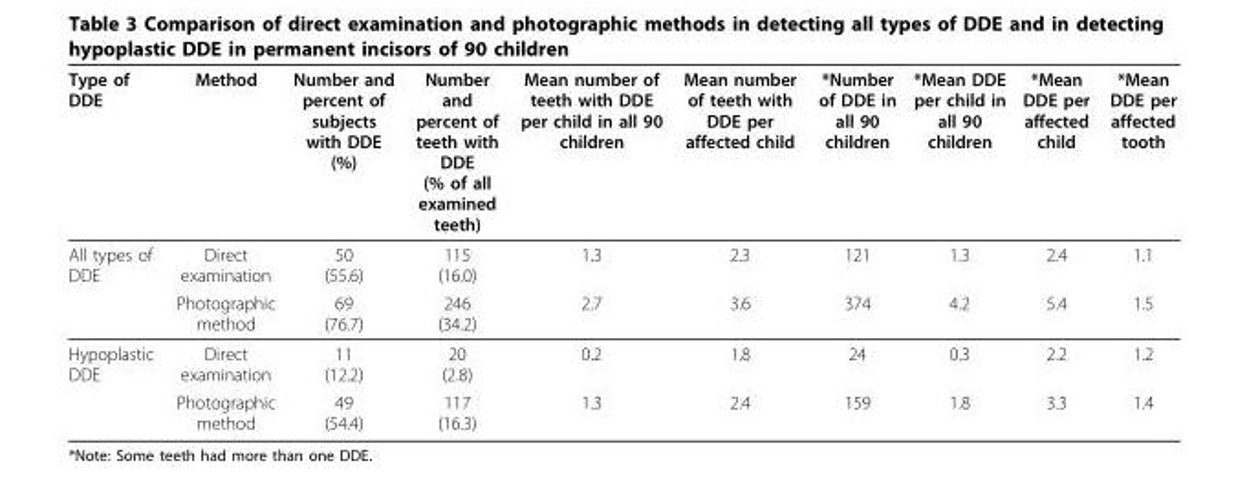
<table><thead><tr><td>Type of DDE</td><td>Method</td><td>Number and percent of subjects with DDE (%)</td><td>Number and percent of teeth with DDE (% of all examined teeth)</td><td>Mean number of teeth with DDE per child in all 90 children</td><td>Mean number of teeth with DDE per affected child</td><td>*Number of DDE in all 90 children</td><td>*Mean DDE per child in all 90 children</td><td>*Mean DDE per affected child</td><td>*Mean DDE per affected tooth</td></tr></thead><tbody><tr><td rowspan="2">All types of DDE</td><td>Direct examination</td><td>50 (55.6)</td><td>115 (16.0)</td><td>1.3</td><td>2.3</td><td>121</td><td>1.3</td><td>2.4</td><td>1.1</td></tr><tr><td>Photographic method</td><td>69 (76.7)</td><td>246 (34.2)</td><td>2.7</td><td>3.6</td><td>374</td><td>4.2</td><td>5.4</td><td>1.5</td></tr><tr><td rowspan="2">Hypoplastic DDE</td><td>Direct examination</td><td>11 (12.2)</td><td>20 (2.8)</td><td>0.2</td><td>1.8</td><td>24</td><td>0.3</td><td>2.2</td><td>1.2</td></tr><tr><td>Photographic method</td><td>49 (54.4)</td><td>117 (16.3)</td><td>1.3</td><td>2.4</td><td>159</td><td>1.8</td><td>3.3</td><td>1.4</td></tr></tbody></table>